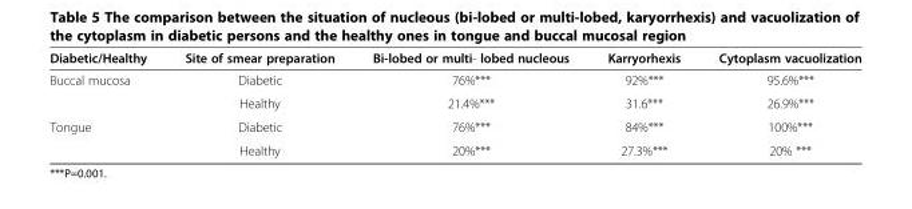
<table><thead><tr><td>Diabetic/Healthy</td><td>Site of smear preparation</td><td>Bi-lobed or multi- lobed nucleous</td><td>Karryorhexis</td><td>Cytoplasm vacuolization</td></tr></thead><tbody><tr><td rowspan="2">Buccal mucosa</td><td>Diabetic</td><td>76%***</td><td>92%***</td><td>95.6%***</td></tr><tr><td>Healthy</td><td>21.4%***</td><td>31.6***</td><td>26.9%***</td></tr><tr><td rowspan="2">Tongue</td><td>Diabetic</td><td>76%***</td><td>84%***</td><td>100%***</td></tr><tr><td>Healthy</td><td>20%***</td><td>27.3%***</td><td>20% ***</td></tr></tbody></table>